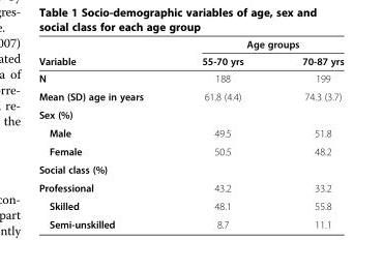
<table><thead><tr><td rowspan="2">Variable</td><td colspan="2">Age groups</td></tr><tr><td>55-70 yrs</td><td>70-87 yrs</td></tr></thead><tbody><tr><td>N</td><td>188</td><td>199</td></tr><tr><td>Mean (SD) age in years</td><td>61.8 (4.4)</td><td>74.3 (3.7)</td></tr><tr><td colspan="3">Sex (%)</td></tr><tr><td>Male</td><td>49.5</td><td>51.8</td></tr><tr><td>Female</td><td>50.5</td><td>48.2</td></tr><tr><td colspan="3">Social class (%)</td></tr><tr><td>Professional</td><td>43.2</td><td>33.2</td></tr><tr><td>Skilled</td><td>48.1</td><td>55.8</td></tr><tr><td>Semi-unskilled</td><td>8.7</td><td>11.1</td></tr></tbody></table>